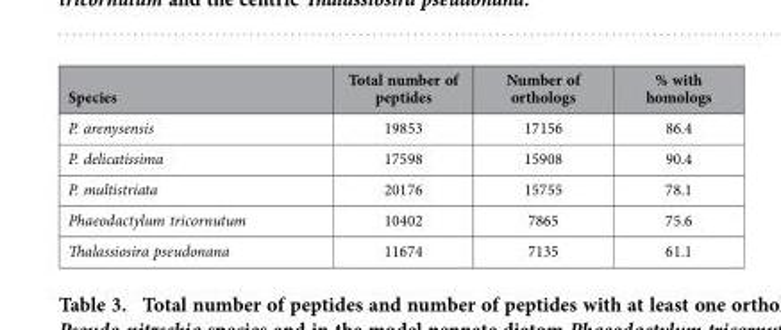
<table><thead><tr><td>Species</td><td>Total number of peptides</td><td>Number of orthologs</td><td>% with homologs</td></tr></thead><tbody><tr><td>P. arenysensis</td><td>19853</td><td>17156</td><td>86.4</td></tr><tr><td>P. delicatissima</td><td>17598</td><td>15908</td><td>90.4</td></tr><tr><td>P. multistriata</td><td>20176</td><td>15755</td><td>78.1</td></tr><tr><td>Phaeodactylum tricornutum</td><td>10402</td><td>7865</td><td>75.6</td></tr><tr><td>Thalassiosira pseudonana</td><td>11674</td><td>7135</td><td>61.1</td></tr></tbody></table>